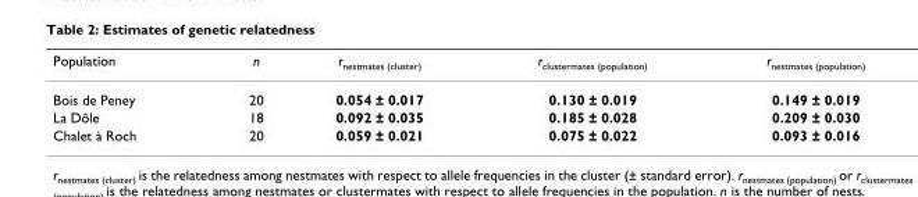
<table><thead><tr><td>Population</td><td>n</td><td>r<sub>nestmates (cluster)</sub></td><td>r<sub>clustermates (population)</sub></td><td>r<sub>nestmates (population)</sub></td></tr></thead><tbody><tr><td>Bois de Peney</td><td>20</td><td>0.054 ± 0.017</td><td>0.130 ± 0.019</td><td>0.149 ± 0.019</td></tr><tr><td>La Dôle</td><td>18</td><td>0.092 ± 0.035</td><td>0.185 ± 0.028</td><td>0.209 ± 0.030</td></tr><tr><td>Chalet à Roch</td><td>20</td><td>0.059 ± 0.021</td><td>0.075 ± 0.022</td><td>0.093 ± 0.016</td></tr></tbody></table>